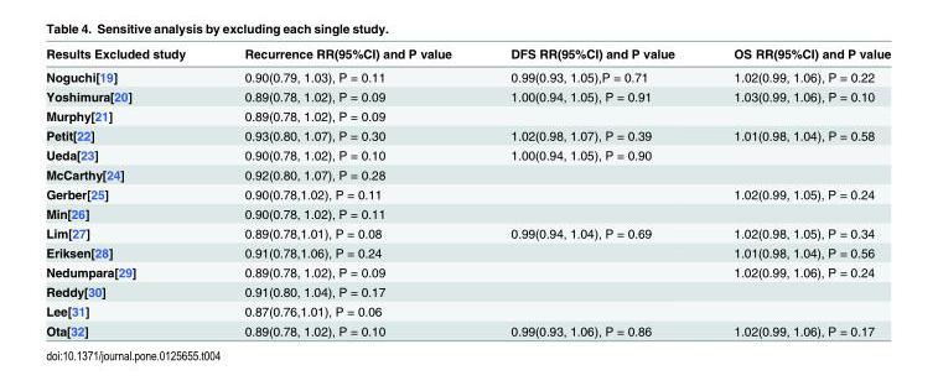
<table><thead><tr><td>Results Excluded study</td><td>Recurrence RR(95%CI) and P value</td><td>DFS RR(95%CI) and P value</td><td>OS RR(95%CI) and P value</td></tr></thead><tbody><tr><td>Noguchi[19]</td><td>0.90(0.79, 1.03), P = 0.11</td><td>0.99(0.93, 1.05),P = 0.71</td><td>1.02(0.99, 1.06), P = 0.22</td></tr><tr><td>Yoshimura[20]</td><td>0.89(0.78, 1.02), P = 0.09</td><td>1.00(0.94, 1.05), P = 0.91</td><td>1.03(0.99, 1.06), P = 0.10</td></tr><tr><td>Murphy[21]</td><td>0.89(0.78, 1.02), P = 0.09</td><td></td><td></td></tr><tr><td>Petit[22]</td><td>0.93(0.80, 1.07), P = 0.30</td><td>1.02(0.98, 1.07), P = 0.39</td><td>1.01(0.98, 1.04), P = 0.58</td></tr><tr><td>Ueda[23]</td><td>0.90(0.78, 1.02), P = 0.10</td><td>1.00(0.94, 1.05), P = 0.90</td><td></td></tr><tr><td>McCarthy[24]</td><td>0.92(0.80, 1.07), P = 0.28</td><td></td><td></td></tr><tr><td>Gerber[25]</td><td>0.90(0.78,1.02), P = 0.11</td><td></td><td>1.02(0.99, 1.05), P = 0.24</td></tr><tr><td>Min[26]</td><td>0.90(0.78, 1.02), P = 0.11</td><td></td><td></td></tr><tr><td>Lim[27]</td><td>0.89(0.78,1.01), P = 0.08</td><td>0.99(0.94, 1.04), P = 0.69</td><td>1.02(0.98, 1.05), P = 0.34</td></tr><tr><td>Eriksen[28]</td><td>0.91(0.78,1.06), P = 0.24</td><td></td><td>1.01(0.98, 1.04), P = 0.56</td></tr><tr><td>Nedumpara[29]</td><td>0.89(0.78, 1.02), P = 0.09</td><td></td><td>1.02(0.99, 1.06), P = 0.24</td></tr><tr><td>Reddy[30]</td><td>0.91(0.80, 1.04), P = 0.17</td><td></td><td></td></tr><tr><td>Lee[31]</td><td>0.87(0.76,1.01), P = 0.06</td><td></td><td></td></tr><tr><td>Ota[32]</td><td>0.89(0.78, 1.02), P = 0.10</td><td>0.99(0.93, 1.06), P = 0.86</td><td>1.02(0.99, 1.06), P = 0.17</td></tr></tbody></table>